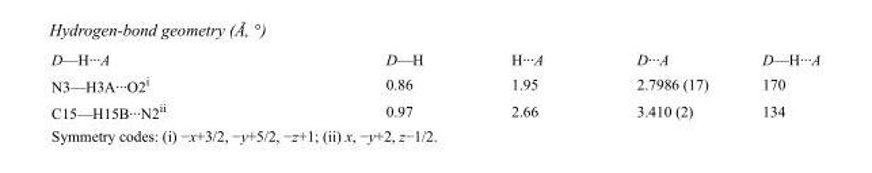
<table><tbody><tr><td>D—H···A</td><td>D—H</td><td>H···A</td><td>D···A</td><td>D—H···A</td></tr><tr><td>N3—H3A···O2<sup>i</sup></td><td>0.86</td><td>1.95</td><td>2.7986 (17)</td><td>170</td></tr><tr><td>C15—H15B···N2<sup>ii</sup></td><td>0.97</td><td>2.66</td><td>3.410 (2)</td><td>134</td></tr></tbody></table>